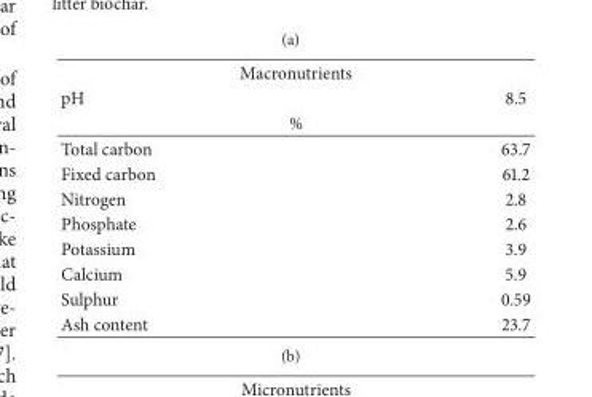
<table><thead><tr><td colspan="2">Macronutrients</td></tr><tr><td>pH</td><td>8.5</td></tr><tr><td colspan="2">%</td></tr></thead><tbody><tr><td>Total carbon</td><td>63.7</td></tr><tr><td>Fixed carbon</td><td>61.2</td></tr><tr><td>Nitrogen</td><td>2.8</td></tr><tr><td>Phosphate</td><td>2.6</td></tr><tr><td>Potassium</td><td>3.9</td></tr><tr><td>Calcium</td><td>5.9</td></tr><tr><td>Sulphur</td><td>0.59</td></tr><tr><td>Ash content</td><td>23.7</td></tr></tbody></table>